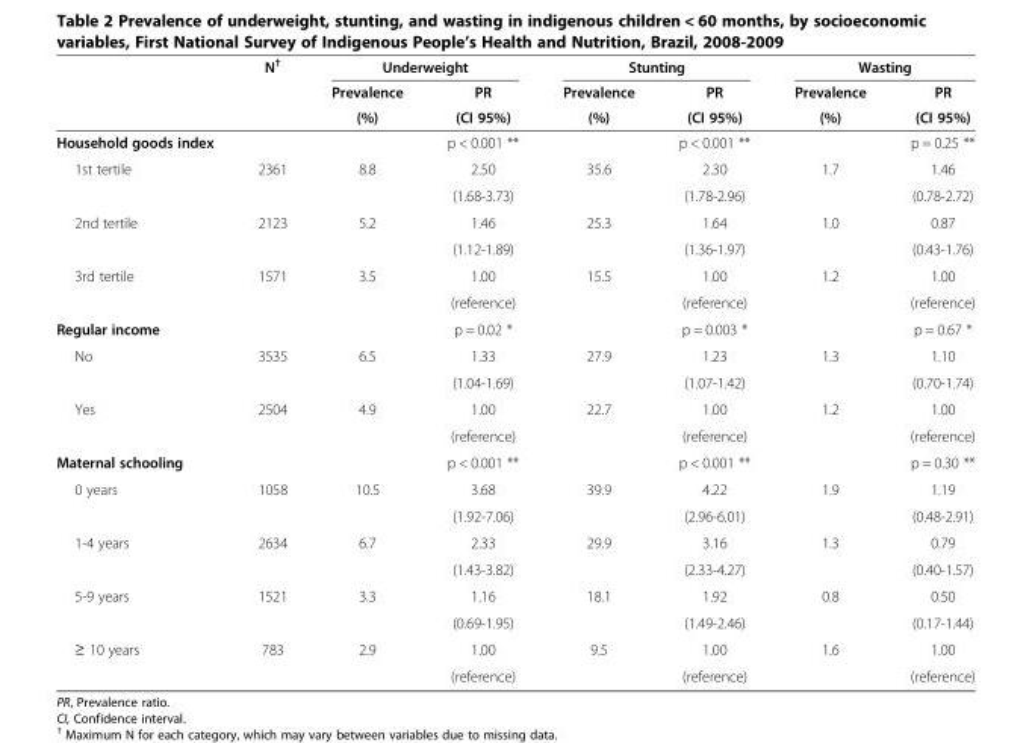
<table><thead><tr><td rowspan="3"></td><td rowspan="3">N<sup>†</sup></td><td colspan="2">Underweight</td><td colspan="2">Stunting</td><td colspan="2">Wasting</td></tr><tr><td rowspan="2">Prevalence (%)</td><td rowspan="2">PR (CI 95%)</td><td rowspan="2">Prevalence (%)</td><td rowspan="2">PR (CI 95%)</td><td rowspan="2">Prevalence (%)</td><td rowspan="2">PR (CI 95%)</td></tr><tr></tr></thead><tbody><tr><td>Household goods index</td><td></td><td></td><td>p &lt; 0.001 **</td><td></td><td>p &lt; 0.001 **</td><td></td><td>p = 0.25 **</td></tr><tr><td rowspan="2">1st tertile</td><td rowspan="2">2361</td><td rowspan="2">8.8</td><td>2.50</td><td rowspan="2">35.6</td><td>2.30</td><td rowspan="2">1.7</td><td>1.46</td></tr><tr><td>(1.68-3.73)</td><td>(1.78-2.96)</td><td>(0.78-2.72)</td></tr><tr><td rowspan="2">2nd tertile</td><td rowspan="2">2123</td><td rowspan="2">5.2</td><td>1.46</td><td rowspan="2">25.3</td><td>1.64</td><td rowspan="2">1.0</td><td>0.87</td></tr><tr><td>(1.12-1.89)</td><td>(1.36-1.97)</td><td>(0.43-1.76)</td></tr><tr><td rowspan="2">3rd tertile</td><td rowspan="2">1571</td><td rowspan="2">3.5</td><td>1.00</td><td rowspan="2">15.5</td><td>1.00</td><td rowspan="2">1.2</td><td>1.00</td></tr><tr><td>(reference)</td><td>(reference)</td><td>(reference)</td></tr><tr><td>Regular income</td><td></td><td></td><td>p = 0.02 *</td><td></td><td>p = 0.003 *</td><td></td><td>p = 0.67 *</td></tr><tr><td rowspan="2">No</td><td rowspan="2">3535</td><td rowspan="2">6.5</td><td>1.33</td><td rowspan="2">27.9</td><td>1.23</td><td rowspan="2">1.3</td><td>1.10</td></tr><tr><td>(1.04-1.69)</td><td>(1.07-1.42)</td><td>(0.70-1.74)</td></tr><tr><td rowspan="2">Yes</td><td rowspan="2">2504</td><td rowspan="2">4.9</td><td>1.00</td><td rowspan="2">22.7</td><td>1.00</td><td rowspan="2">1.2</td><td>1.00</td></tr><tr><td>(reference)</td><td>(reference)</td><td>(reference)</td></tr><tr><td>Maternal schooling</td><td></td><td></td><td>p &lt; 0.001 **</td><td></td><td>p &lt; 0.001 **</td><td></td><td>p = 0.30 **</td></tr><tr><td rowspan="2">0 years</td><td rowspan="2">1058</td><td rowspan="2">10.5</td><td>3.68</td><td rowspan="2">39.9</td><td>4.22</td><td rowspan="2">1.9</td><td>1.19</td></tr><tr><td>(1.92-7.06)</td><td>(2.96-6.01)</td><td>(0.48-2.91)</td></tr><tr><td rowspan="2">1-4 years</td><td rowspan="2">2634</td><td rowspan="2">6.7</td><td>2.33</td><td rowspan="2">29.9</td><td>3.16</td><td rowspan="2">1.3</td><td>0.79</td></tr><tr><td>(1.43-3.82)</td><td>(2.33-4.27)</td><td>(0.40-1.57)</td></tr><tr><td rowspan="2">5-9 years</td><td rowspan="2">1521</td><td rowspan="2">3.3</td><td>1.16</td><td rowspan="2">18.1</td><td>1.92</td><td rowspan="2">0.8</td><td>0.50</td></tr><tr><td>(0.69-1.95)</td><td>(1.49-2.46)</td><td>(0.17-1.44)</td></tr><tr><td rowspan="2">≥ 10 years</td><td rowspan="2">783</td><td rowspan="2">2.9</td><td>1.00</td><td rowspan="2">9.5</td><td>1.00</td><td rowspan="2">1.6</td><td>1.00</td></tr><tr><td>(reference)</td><td>(reference)</td><td>(reference)</td></tr></tbody></table>